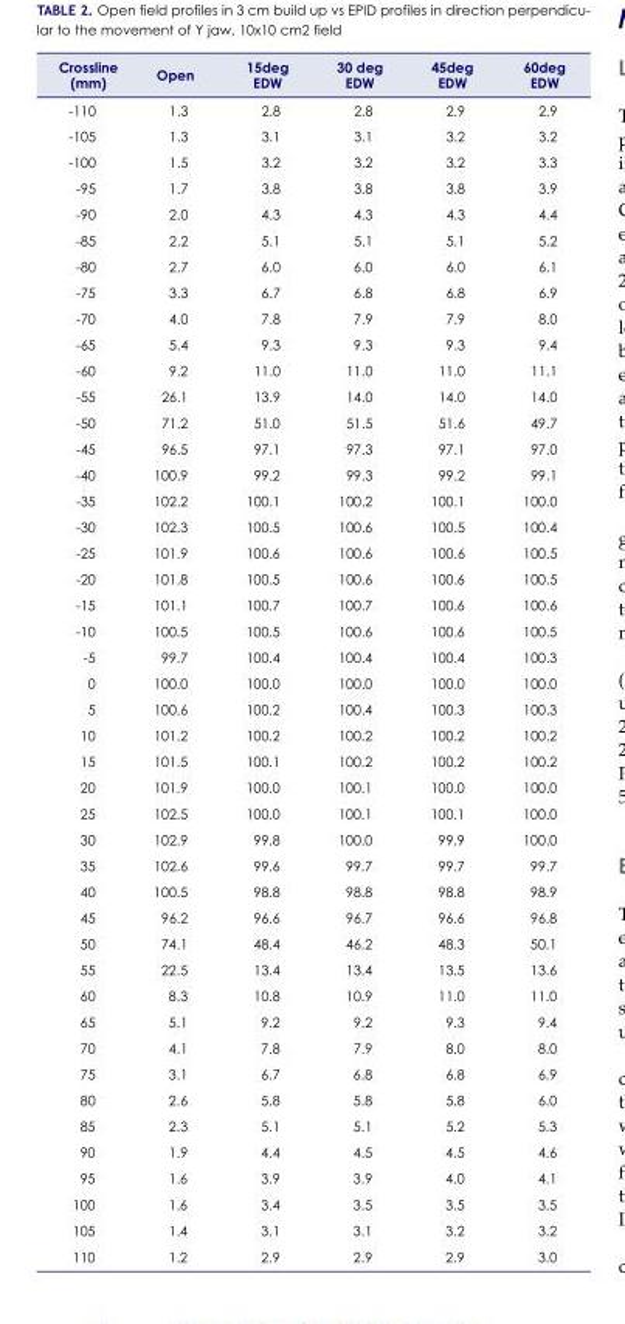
<table><thead><tr><td>Crossline (mm)</td><td>Open</td><td>15deg EDW</td><td>30 deg EDW</td><td>45deg EDW</td><td>60deg EDW</td></tr></thead><tbody><tr><td>-110</td><td>1.3</td><td>2.8</td><td>2.8</td><td>2.9</td><td>2.9</td></tr><tr><td>-105</td><td>1.3</td><td>3.1</td><td>3.1</td><td>3.2</td><td>3.2</td></tr><tr><td>-100</td><td>1.5</td><td>3.2</td><td>3.2</td><td>3.2</td><td>3.3</td></tr><tr><td>-95</td><td>1.7</td><td>3.8</td><td>3.8</td><td>3.8</td><td>3.9</td></tr><tr><td>-90</td><td>2.0</td><td>4.3</td><td>4.3</td><td>4.3</td><td>4.4</td></tr><tr><td>-85</td><td>2.2</td><td>5.1</td><td>5.1</td><td>5.1</td><td>5.2</td></tr><tr><td>-80</td><td>2.7</td><td>6.0</td><td>6.0</td><td>6.0</td><td>6.1</td></tr><tr><td>-75</td><td>3.3</td><td>6.7</td><td>6.8</td><td>6.8</td><td>6.9</td></tr><tr><td>-70</td><td>4.0</td><td>7.8</td><td>7.9</td><td>7.9</td><td>8.0</td></tr><tr><td>-65</td><td>5.4</td><td>9.3</td><td>9.3</td><td>9.3</td><td>9.4</td></tr><tr><td>-60</td><td>9.2</td><td>11.0</td><td>11.0</td><td>11.0</td><td>11.1</td></tr><tr><td>-55</td><td>26.1</td><td>13.9</td><td>14.0</td><td>14.0</td><td>14.0</td></tr><tr><td>-50</td><td>71.2</td><td>51.0</td><td>51.5</td><td>51.6</td><td>49.7</td></tr><tr><td>-45</td><td>96.5</td><td>97.1</td><td>97.3</td><td>97.1</td><td>97.0</td></tr><tr><td>-40</td><td>100.9</td><td>99.2</td><td>99.3</td><td>99.2</td><td>99.1</td></tr><tr><td>-35</td><td>102.2</td><td>100.1</td><td>100.2</td><td>100.1</td><td>100.0</td></tr><tr><td>-30</td><td>102.3</td><td>100.5</td><td>100.6</td><td>100.5</td><td>100.4</td></tr><tr><td>-25</td><td>101.9</td><td>100.6</td><td>100.6</td><td>100.6</td><td>100.5</td></tr><tr><td>-20</td><td>101.8</td><td>100.5</td><td>100.6</td><td>100.6</td><td>100.5</td></tr><tr><td>-15</td><td>101.1</td><td>100.7</td><td>100.7</td><td>100.6</td><td>100.6</td></tr><tr><td>-10</td><td>100.5</td><td>100.5</td><td>100.6</td><td>100.6</td><td>100.5</td></tr><tr><td>-5</td><td>99.7</td><td>100.4</td><td>100.4</td><td>100.4</td><td>100.3</td></tr><tr><td>0</td><td>100.0</td><td>100.0</td><td>100.0</td><td>100.0</td><td>100.0</td></tr><tr><td>5</td><td>100.6</td><td>100.2</td><td>100.4</td><td>100.3</td><td>100.3</td></tr><tr><td>10</td><td>101.2</td><td>100.2</td><td>100.2</td><td>100.2</td><td>100.2</td></tr><tr><td>15</td><td>101.5</td><td>100.1</td><td>100.2</td><td>100.2</td><td>100.2</td></tr><tr><td>20</td><td>101.9</td><td>100.0</td><td>100.1</td><td>100.0</td><td>100.0</td></tr><tr><td>25</td><td>102.5</td><td>100.0</td><td>100.1</td><td>100.1</td><td>100.0</td></tr><tr><td>30</td><td>102.9</td><td>99.8</td><td>100.0</td><td>99.9</td><td>100.0</td></tr><tr><td>35</td><td>102.6</td><td>99.6</td><td>99.7</td><td>99.7</td><td>99.7</td></tr><tr><td>40</td><td>100.5</td><td>98.8</td><td>98.8</td><td>98.8</td><td>98.9</td></tr><tr><td>45</td><td>96.2</td><td>96.6</td><td>96.7</td><td>96.6</td><td>96.8</td></tr><tr><td>50</td><td>74.1</td><td>48.4</td><td>46.2</td><td>48.3</td><td>50.1</td></tr><tr><td>55</td><td>22.5</td><td>13.4</td><td>13.4</td><td>13.5</td><td>13.6</td></tr><tr><td>60</td><td>8.3</td><td>10.8</td><td>10.9</td><td>11.0</td><td>11.0</td></tr><tr><td>65</td><td>5.1</td><td>9.2</td><td>9.2</td><td>9.3</td><td>9.4</td></tr><tr><td>70</td><td>4.1</td><td>7.8</td><td>7.9</td><td>8.0</td><td>8.0</td></tr><tr><td>75</td><td>3.1</td><td>6.7</td><td>6.8</td><td>6.8</td><td>6.9</td></tr><tr><td>80</td><td>2.6</td><td>5.8</td><td>5.8</td><td>5.8</td><td>6.0</td></tr><tr><td>85</td><td>2.3</td><td>5.1</td><td>5.1</td><td>5.2</td><td>5.3</td></tr><tr><td>90</td><td>1.9</td><td>4.4</td><td>4.5</td><td>4.5</td><td>4.6</td></tr><tr><td>95</td><td>1.6</td><td>3.9</td><td>3.9</td><td>4.0</td><td>4.1</td></tr><tr><td>100</td><td>1.6</td><td>3.4</td><td>3.5</td><td>3.5</td><td>3.5</td></tr><tr><td>105</td><td>1.4</td><td>3.1</td><td>3.1</td><td>3.2</td><td>3.2</td></tr><tr><td>110</td><td>1.2</td><td>2.9</td><td>2.9</td><td>2.9</td><td>3.0</td></tr></tbody></table>